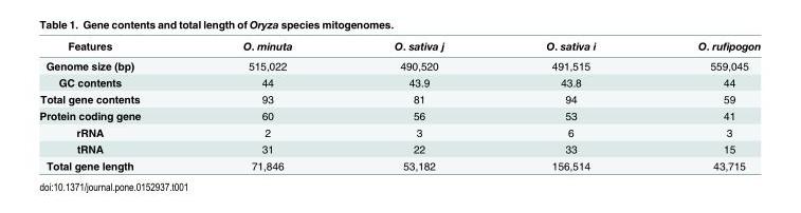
<table><thead><tr><td>Features</td><td>O. minuta</td><td>O. sativa j</td><td>O. sativa i</td><td>O. rufipogon</td></tr></thead><tbody><tr><td>Genome size (bp)</td><td>515,022</td><td>490,520</td><td>491,515</td><td>559,045</td></tr><tr><td>GC contents</td><td>44</td><td>43.9</td><td>43.8</td><td>44</td></tr><tr><td>Total gene contents</td><td>93</td><td>81</td><td>94</td><td>59</td></tr><tr><td>Protein coding gene</td><td>60</td><td>56</td><td>53</td><td>41</td></tr><tr><td>rRNA</td><td>2</td><td>3</td><td>6</td><td>3</td></tr><tr><td>tRNA</td><td>31</td><td>22</td><td>33</td><td>15</td></tr><tr><td>Total gene length</td><td>71,846</td><td>53,182</td><td>156,514</td><td>43,715</td></tr></tbody></table>